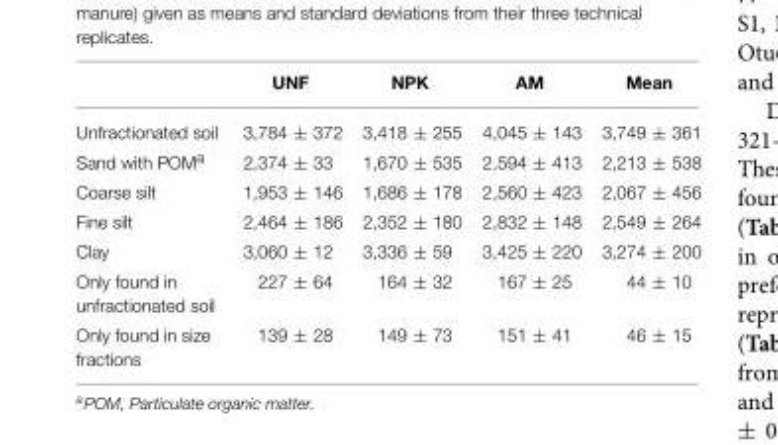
<table><thead><tr><td></td><td>UNF</td><td>NPK</td><td>AM</td><td>Mean</td></tr></thead><tbody><tr><td>Unfractionated soil</td><td>3,784 ± 372</td><td>3,418 ± 255</td><td>4,045 ± 143</td><td>3,749 ± 361</td></tr><tr><td>Sand with POM<sup>a</sup></td><td>2,374 ± 33</td><td>1,670 ± 535</td><td>2,594 ± 413</td><td>2,213 ± 538</td></tr><tr><td>Coarse silt</td><td>1,953 ± 146</td><td>1,686 ± 178</td><td>2,560 ± 423</td><td>2,067 ± 456</td></tr><tr><td>Fine silt</td><td>2,464 ± 186</td><td>2,352 ± 180</td><td>2,832 ± 148</td><td>2,549 ± 264</td></tr><tr><td>Clay</td><td>3,060 ± 12</td><td>3,336 ± 59</td><td>3,425 ± 220</td><td>3,274 ± 200</td></tr><tr><td>Only found in unfractionated soil</td><td>227 ± 64</td><td>164 ± 32</td><td>167 ± 25</td><td>44 ± 10</td></tr><tr><td>Only found in size fractions</td><td>139 ± 28</td><td>149 ± 73</td><td>151 ± 41</td><td>46 ± 15</td></tr></tbody></table>